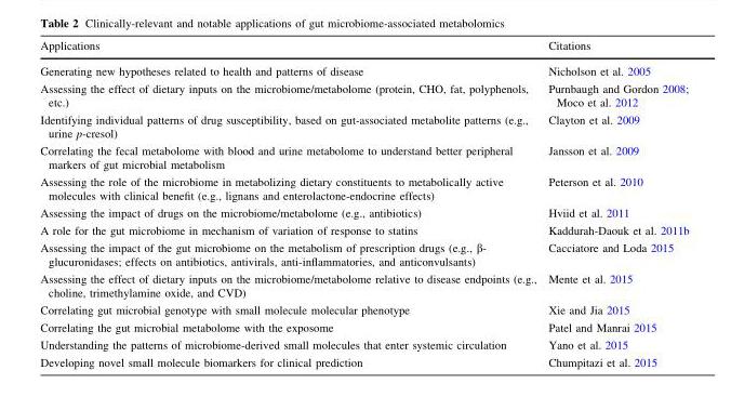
<table><thead><tr><td>Applications</td><td>Citations</td></tr></thead><tbody><tr><td>Generating new hypotheses related to health and patterns of disease</td><td>Nicholson et al. 2005</td></tr><tr><td>Assessing the effect of dietary inputs on the microbiome/metabolome (protein, CHO, fat, polyphenols, etc.)</td><td>Purnbaugh and Gordon 2008; Moco et al. 2012</td></tr><tr><td>Identifying individual patterns of drug susceptibility, based on gut-associated metabolite patterns (e.g., urine p-cresol)</td><td>Clayton et al. 2009</td></tr><tr><td>Correlating the fecal metabolome with blood and urine metabolome to understand better peripheral markers of gut microbial metabolism</td><td>Jansson et al. 2009</td></tr><tr><td>Assessing the role of the microbiome in metabolizing dietary constituents to metabolically active molecules with clinical benefit (e.g., lignans and enterolactone-endocrine effects)</td><td>Peterson et al. 2010</td></tr><tr><td>Assessing the impact of drugs on the microbiome/metabolome (e.g., antibiotics)</td><td>Hviid et al. 2011</td></tr><tr><td>A role for the gut microbiome in mechanism of variation of response to statins</td><td>Kaddurah-Daouk et al. 2011b</td></tr><tr><td>Assessing the impact of the gut microbiome on the metabolism of prescription drugs (e.g., β- glucuronidases; effects on antibiotics, antivirals, anti-inflammatories, and anticonvulsants)</td><td>Cacciatore and Loda 2015</td></tr><tr><td>Assessing the effect of dietary inputs on the microbiome/metabolome relative to disease endpoints (e.g., choline, trimethylamine oxide, and CVD)</td><td>Mente et al. 2015</td></tr><tr><td>Correlating gut microbial genotype with small molecule molecular phenotype</td><td>Xie and Jia 2015</td></tr><tr><td>Correlating the gut microbial metabolome with the exposome</td><td>Patel and Manrai 2015</td></tr><tr><td>Understanding the patterns of microbiome-derived small molecules that enter systemic circulation</td><td>Yano et al. 2015</td></tr><tr><td>Developing novel small molecule biomarkers for clinical prediction</td><td>Chumpitazi et al. 2015</td></tr></tbody></table>